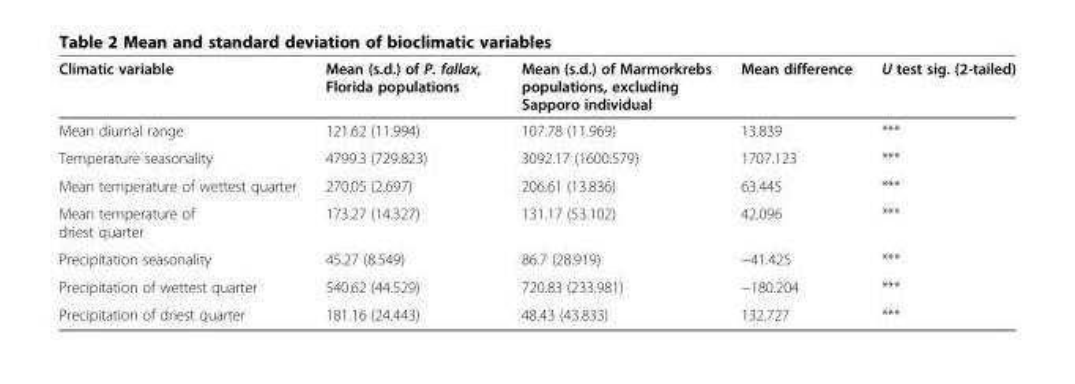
<table><thead><tr><td>Climatic variable</td><td>Mean (s.d.) of P. fallax, Florida populations</td><td>Mean (s.d.) of Marmorkrebs populations, excluding Sapporo individual</td><td>Mean difference</td><td>U test sig. (2-tailed)</td></tr></thead><tbody><tr><td>Mean diurnal range</td><td>121.62 (11.994)</td><td>107.78 (11.969)</td><td>13.839</td><td>***</td></tr><tr><td>Temperature seasonality</td><td>4799.3 (729.823)</td><td>3092.17 (1600.579)</td><td>1707.123</td><td>***</td></tr><tr><td>Mean temperature of wettest quarter</td><td>270.05 (2.697)</td><td>206.61 (13.836)</td><td>63.445</td><td>***</td></tr><tr><td>Mean temperature of driest quarter</td><td>173.27 (14.327)</td><td>131.17 (53.102)</td><td>42.096</td><td>***</td></tr><tr><td>Precipitation seasonality</td><td>45.27 (8.549)</td><td>86.7 (28.919)</td><td>−41.425</td><td>***</td></tr><tr><td>Precipitation of wettest quarter</td><td>540.62 (44.529)</td><td>720.83 (233.981)</td><td>−180.204</td><td>***</td></tr><tr><td>Precipitation of driest quarter</td><td>181.16 (24.443)</td><td>48.43 (43.833)</td><td>132.727</td><td>***</td></tr></tbody></table>